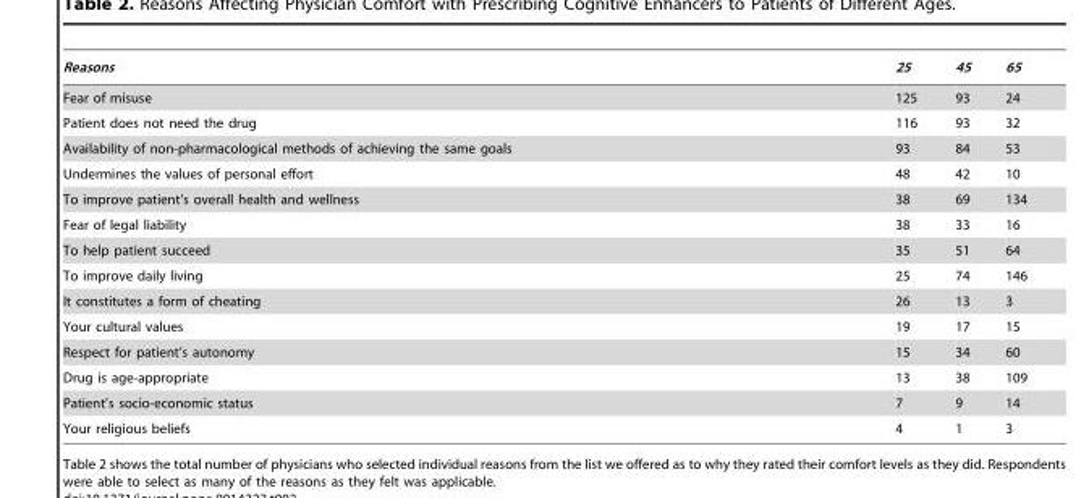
<table><thead><tr><td>Reasons</td><td>25</td><td>45</td><td>65</td></tr></thead><tbody><tr><td>Fear of misuse</td><td>125</td><td>93</td><td>24</td></tr><tr><td>Patient does not need the drug</td><td>116</td><td>93</td><td>32</td></tr><tr><td>Availability of non-pharmacological methods of achieving the same goals</td><td>93</td><td>84</td><td>53</td></tr><tr><td>Undermines the values of personal effort</td><td>48</td><td>42</td><td>10</td></tr><tr><td>To improve patient’s overall health and wellness</td><td>38</td><td>69</td><td>134</td></tr><tr><td>Fear of legal liability</td><td>38</td><td>33</td><td>16</td></tr><tr><td>To help patient succeed</td><td>35</td><td>51</td><td>64</td></tr><tr><td>To improve daily living</td><td>25</td><td>74</td><td>146</td></tr><tr><td>It constitutes a form of cheating</td><td>26</td><td>13</td><td>3</td></tr><tr><td>Your cultural values</td><td>19</td><td>17</td><td>15</td></tr><tr><td>Respect for patient’s autonomy</td><td>15</td><td>34</td><td>60</td></tr><tr><td>Drug is age-appropriate</td><td>13</td><td>38</td><td>109</td></tr><tr><td>Patient’s socio-economic status</td><td>7</td><td>9</td><td>14</td></tr><tr><td>Your religious beliefs</td><td>4</td><td>1</td><td>3</td></tr></tbody></table>